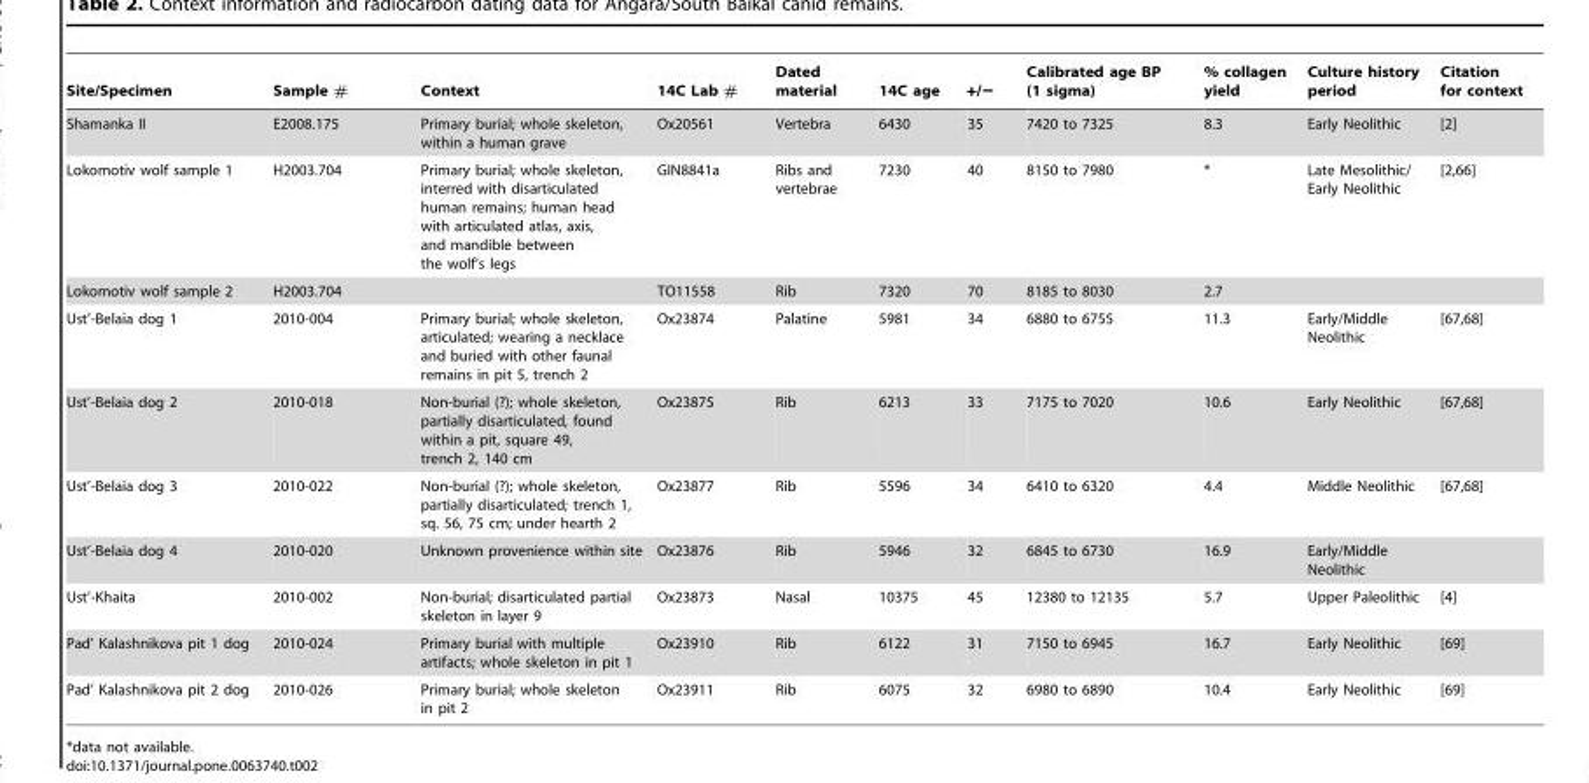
<table><thead><tr><td>Site/Specimen</td><td>Sample #</td><td>Context</td><td>14C Lab #</td><td>Dated material</td><td>14C age</td><td>+/−</td><td>Calibrated age BP (1 sigma)</td><td>% collagen yield</td><td>Culture history period</td><td>Citation for context</td></tr></thead><tbody><tr><td>Shamanka II</td><td>E2008.175</td><td>Primary burial; whole skeleton, within a human grave</td><td>Ox20561</td><td>Vertebra</td><td>6430</td><td>35</td><td>7420 to 7325</td><td>8.3</td><td>Early Neolithic</td><td>[2]</td></tr><tr><td>Lokomotiv wolf sample 1</td><td>H2003.704</td><td>Primary burial; whole skeleton, interred with disarticulated human remains; human head with articulated atlas, axis, and mandible between the wolf’s legs</td><td>GIN8841a</td><td>Ribs and vertebrae</td><td>7230</td><td>40</td><td>8150 to 7980</td><td>*</td><td>Late Mesolithic/ Early Neolithic</td><td>[2,66]</td></tr><tr><td>Lokomotiv wolf sample 2</td><td>H2003.704</td><td></td><td>TO11558</td><td>Rib</td><td>7320</td><td>70</td><td>8185 to 8030</td><td>2.7</td><td></td><td></td></tr><tr><td>Ust’-Belaia dog 1</td><td>2010-004</td><td>Primary burial; whole skeleton, articulated; wearing a necklace and buried with other faunal remains in pit 5, trench 2</td><td>Ox23874</td><td>Palatine</td><td>5981</td><td>34</td><td>6880 to 6755</td><td>11.3</td><td>Early/Middle Neolithic</td><td>[67,68]</td></tr><tr><td>Ust’-Belaia dog 2</td><td>2010-018</td><td>Non-burial (?); whole skeleton, partially disarticulated, found within a pit, square 49, trench 2, 140 cm</td><td>Ox23875</td><td>Rib</td><td>6213</td><td>33</td><td>7175 to 7020</td><td>10.6</td><td>Early Neolithic</td><td>[67,68]</td></tr><tr><td>Ust’-Belaia dog 3</td><td>2010-022</td><td>Non-burial (?); whole skeleton, partially disarticulated; trench 1, sq. 56, 75 cm; under hearth 2</td><td>Ox23877</td><td>Rib</td><td>5596</td><td>34</td><td>6410 to 6320</td><td>4.4</td><td>Middle Neolithic</td><td>[67,68]</td></tr><tr><td>Ust’-Belaia dog 4</td><td>2010-020</td><td>Unknown provenience within site</td><td>Ox23876</td><td>Rib</td><td>5946</td><td>32</td><td>6845 to 6730</td><td>16.9</td><td>Early/Middle Neolithic</td><td></td></tr><tr><td>Ust’-Khaita</td><td>2010-002</td><td>Non-burial; disarticulated partial skeleton in layer 9</td><td>Ox23873</td><td>Nasal</td><td>10375</td><td>45</td><td>12380 to 12135</td><td>5.7</td><td>Upper Paleolithic</td><td>[4]</td></tr><tr><td>Pad’ Kalashnikova pit 1 dog</td><td>2010-024</td><td>Primary burial with multiple artifacts; whole skeleton in pit 1</td><td>Ox23910</td><td>Rib</td><td>6122</td><td>31</td><td>7150 to 6945</td><td>16.7</td><td>Early Neolithic</td><td>[69]</td></tr><tr><td>Pad’ Kalashnikova pit 2 dog</td><td>2010-026</td><td>Primary burial; whole skeleton in pit 2</td><td>Ox23911</td><td>Rib</td><td>6075</td><td>32</td><td>6980 to 6890</td><td>10.4</td><td>Early Neolithic</td><td>[69]</td></tr></tbody></table>